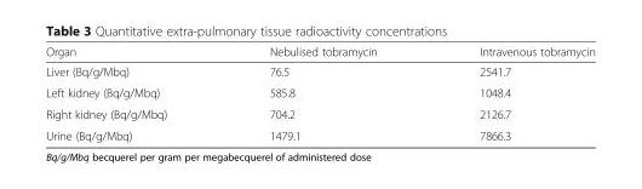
<table><thead><tr><td>Organ</td><td>Nebulised tobramycin</td><td>Intravenous tobramycin</td></tr></thead><tbody><tr><td>Liver (Bq/g/Mbq)</td><td>76.5</td><td>2541.7</td></tr><tr><td>Left kidney (Bq/g/Mbq)</td><td>585.8</td><td>1048.4</td></tr><tr><td>Right kidney (Bq/g/Mbq)</td><td>704.2</td><td>2126.7</td></tr><tr><td>Urine (Bq/g/Mbq)</td><td>1479.1</td><td>7866.3</td></tr></tbody></table>